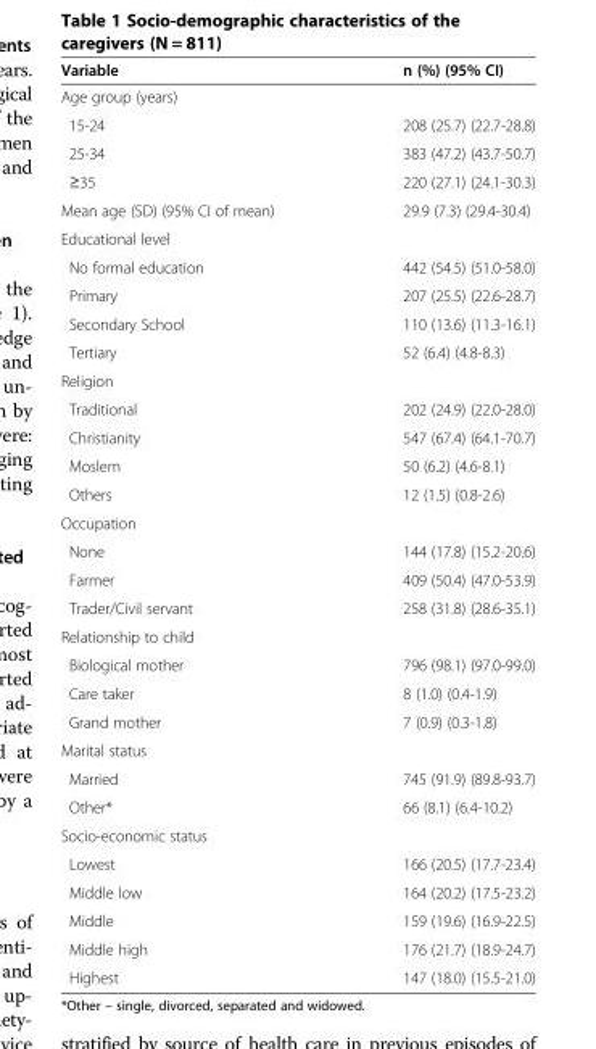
<table><thead><tr><td>Variable</td><td>n (%) (95% CI)</td></tr></thead><tbody><tr><td colspan="2">Age group (years)</td></tr><tr><td>15-24</td><td>208 (25.7) (22.7-28.8)</td></tr><tr><td>25-34</td><td>383 (47.2) (43.7-50.7)</td></tr><tr><td>≥35</td><td>220 (27.1) (24.1-30.3)</td></tr><tr><td>Mean age (SD) (95% CI of mean)</td><td>29.9 (7.3) (29.4-30.4)</td></tr><tr><td colspan="2">Educational level</td></tr><tr><td>No formal education</td><td>442 (54.5) (51.0-58.0)</td></tr><tr><td>Primary</td><td>207 (25.5) (22.6-28.7)</td></tr><tr><td>Secondary School</td><td>110 (13.6) (11.3-16.1)</td></tr><tr><td>Tertiary</td><td>52 (6.4) (4.8-8.3)</td></tr><tr><td colspan="2">Religion</td></tr><tr><td>Traditional</td><td>202 (24.9) (22.0-28.0)</td></tr><tr><td>Christianity</td><td>547 (67.4) (64.1-70.7)</td></tr><tr><td>Moslem</td><td>50 (6.2) (4.6-8.1)</td></tr><tr><td>Others</td><td>12 (1.5) (0.8-2.6)</td></tr><tr><td colspan="2">Occupation</td></tr><tr><td>None</td><td>144 (17.8) (15.2-20.6)</td></tr><tr><td>Farmer</td><td>409 (50.4) (47.0-53.9)</td></tr><tr><td>Trader/Civil servant</td><td>258 (31.8) (28.6-35.1)</td></tr><tr><td colspan="2">Relationship to child</td></tr><tr><td>Biological mother</td><td>796 (98.1) (97.0-99.0)</td></tr><tr><td>Care taker</td><td>8 (1.0) (0.4-1.9)</td></tr><tr><td>Grand mother</td><td>7 (0.9) (0.3-1.8)</td></tr><tr><td colspan="2">Marital status</td></tr><tr><td>Married</td><td>745 (91.9) (89.8-93.7)</td></tr><tr><td>Other*</td><td>66 (8.1) (6.4-10.2)</td></tr><tr><td colspan="2">Socio-economic status</td></tr><tr><td>Lowest</td><td>166 (20.5) (17.7-23.4)</td></tr><tr><td>Middle low</td><td>164 (20.2) (17.5-23.2)</td></tr><tr><td>Middle</td><td>159 (19.6) (16.9-22.5)</td></tr><tr><td>Middle high</td><td>176 (21.7) (18.9-24.7)</td></tr><tr><td>Highest</td><td>147 (18.0) (15.5-21.0)</td></tr></tbody></table>